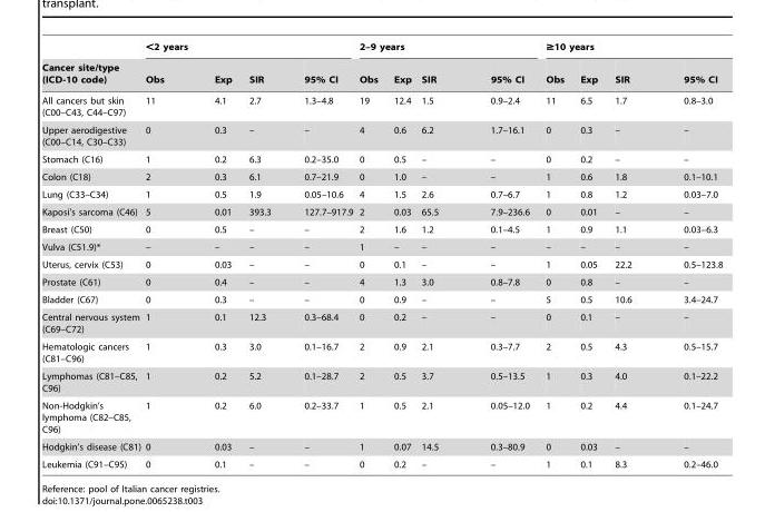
<table><thead><tr><td rowspan="2">Cancer site/type (ICD-10 code)</td><td colspan="4">&lt;2 years</td><td colspan="4">2–9 years</td><td colspan="4">≥10 years</td></tr><tr><td>Obs</td><td>Exp</td><td>SIR</td><td>95% CI</td><td>Obs</td><td>Exp</td><td>SIR</td><td>95% CI</td><td>Obs</td><td>Exp</td><td>SIR</td><td>95% CI</td></tr></thead><tbody><tr><td>All cancers but skin (C00–C43, C44–C97)</td><td>11</td><td>4.1</td><td>2.7</td><td>1.3–4.8</td><td>19</td><td>12.4</td><td>1.5</td><td>0.9–2.4</td><td>11</td><td>6.5</td><td>1.7</td><td>0.8–3.0</td></tr><tr><td>Upper aerodigestive (C00–C14, C30–C33)</td><td>0</td><td>0.3</td><td>–</td><td>–</td><td>4</td><td>0.6</td><td>6.2</td><td>1.7–16.1</td><td>0</td><td>0.3</td><td>–</td><td>–</td></tr><tr><td>Stomach (C16)</td><td>1</td><td>0.2</td><td>6.3</td><td>0.2–35.0</td><td>0</td><td>0.5</td><td>–</td><td>–</td><td>0</td><td>0.2</td><td>–</td><td>–</td></tr><tr><td>Colon (C18)</td><td>2</td><td>0.3</td><td>6.1</td><td>0.7–21.9</td><td>0</td><td>1.0</td><td>–</td><td>–</td><td>1</td><td>0.6</td><td>1.8</td><td>0.1–10.1</td></tr><tr><td>Lung (C33–C34)</td><td>1</td><td>0.5</td><td>1.9</td><td>0.05–10.6</td><td>4</td><td>1.5</td><td>2.6</td><td>0.7–6.7</td><td>1</td><td>0.8</td><td>1.2</td><td>0.03–7.0</td></tr><tr><td>Kaposi’s sarcoma (C46)</td><td>5</td><td>0.01</td><td>393.3</td><td>127.7–917.9</td><td>2</td><td>0.03</td><td>65.5</td><td>7.9–236.6</td><td>0</td><td>0.01</td><td>–</td><td>–</td></tr><tr><td>Breast (C50)</td><td>0</td><td>0.5</td><td>–</td><td>–</td><td>2</td><td>1.6</td><td>1.2</td><td>0.1–4.5</td><td>1</td><td>0.9</td><td>1.1</td><td>0.03–6.3</td></tr><tr><td>Vulva (C51.9)*</td><td>–</td><td>–</td><td>–</td><td>–</td><td>1</td><td>–</td><td>–</td><td>–</td><td>–</td><td>–</td><td>–</td><td>–</td></tr><tr><td>Uterus, cervix (C53)</td><td>0</td><td>0.03</td><td>–</td><td>–</td><td>0</td><td>0.1</td><td>–</td><td>–</td><td>1</td><td>0.05</td><td>22.2</td><td>0.5–123.8</td></tr><tr><td>Prostate (C61)</td><td>0</td><td>0.4</td><td>–</td><td>–</td><td>4</td><td>1.3</td><td>3.0</td><td>0.8–7.8</td><td>0</td><td>0.8</td><td>–</td><td>–</td></tr><tr><td>Bladder (C67)</td><td>0</td><td>0.3</td><td>–</td><td>–</td><td>0</td><td>0.9</td><td>–</td><td>–</td><td>5</td><td>0.5</td><td>10.6</td><td>3.4–24.7</td></tr><tr><td>Central nervous system (C69–C72)</td><td>1</td><td>0.1</td><td>12.3</td><td>0.3–68.4</td><td>0</td><td>0.2</td><td>–</td><td>–</td><td>0</td><td>0.1</td><td>–</td><td>–</td></tr><tr><td>Hematologic cancers (C81–C96)</td><td>1</td><td>0.3</td><td>3.0</td><td>0.1–16.7</td><td>2</td><td>0.9</td><td>2.1</td><td>0.3–7.7</td><td>2</td><td>0.5</td><td>4.3</td><td>0.5–15.7</td></tr><tr><td>Lymphomas (C81–C85, C96)</td><td>1</td><td>0.2</td><td>5.2</td><td>0.1–28.7</td><td>2</td><td>0.5</td><td>3.7</td><td>0.5–13.5</td><td>1</td><td>0.3</td><td>4.0</td><td>0.1–22.2</td></tr><tr><td>Non-Hodgkin’s lymphoma (C82–C85, C96)</td><td>1</td><td>0.2</td><td>6.0</td><td>0.2–33.7</td><td>1</td><td>0.5</td><td>2.1</td><td>0.05–12.0</td><td>1</td><td>0.2</td><td>4.4</td><td>0.1–24.7</td></tr><tr><td>Hodgkin’s disease (C81)</td><td>0</td><td>0.03</td><td>–</td><td>–</td><td>1</td><td>0.07</td><td>14.5</td><td>0.3–80.9</td><td>0</td><td>0.03</td><td>–</td><td>–</td></tr><tr><td>Leukemia (C91–C95)</td><td>0</td><td>0.1</td><td>–</td><td>–</td><td>0</td><td>0.2</td><td>–</td><td>–</td><td>1</td><td>0.1</td><td>8.3</td><td>0.2–46.0</td></tr></tbody></table>